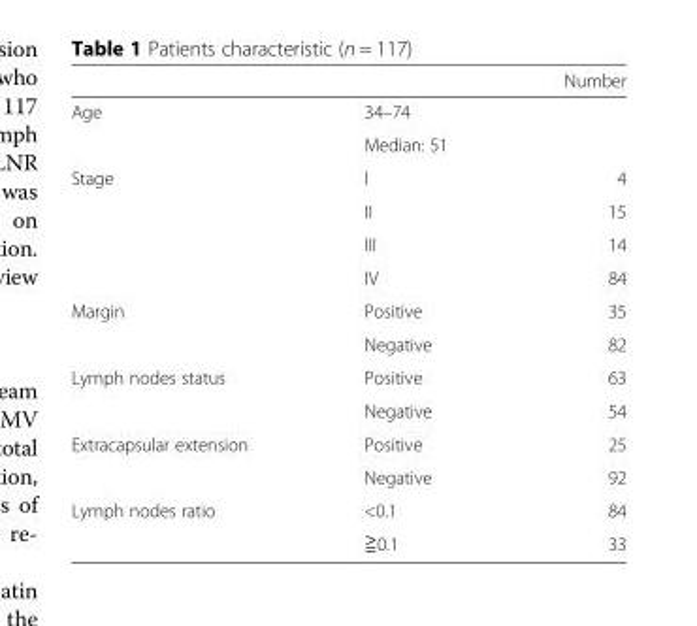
<table><thead><tr><td></td><td></td><td>Number</td></tr></thead><tbody><tr><td rowspan="2">Age</td><td>34–74</td><td></td></tr><tr><td>Median: 51</td><td></td></tr><tr><td rowspan="4">Stage</td><td>I</td><td>4</td></tr><tr><td>II</td><td>15</td></tr><tr><td>III</td><td>14</td></tr><tr><td>IV</td><td>84</td></tr><tr><td rowspan="2">Margin</td><td>Positive</td><td>35</td></tr><tr><td>Negative</td><td>82</td></tr><tr><td rowspan="2">Lymph nodes status</td><td>Positive</td><td>63</td></tr><tr><td>Negative</td><td>54</td></tr><tr><td rowspan="2">Extracapsular extension</td><td>Positive</td><td>25</td></tr><tr><td>Negative</td><td>92</td></tr><tr><td rowspan="2">Lymph nodes ratio</td><td>&lt;0.1</td><td>84</td></tr><tr><td>≧0.1</td><td>33</td></tr></tbody></table>